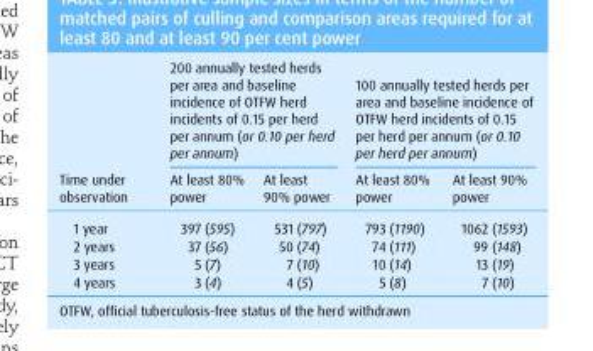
<table><thead><tr><td rowspan="2">Time under observation</td><td colspan="2">200 annually tested herds per area and baseline incidence of OTFW herd incidents of 0.15 per herd per annum (or 0.10 per herd per annum)</td><td colspan="2">100 annually tested herds per area and baseline incidence of OTFW herd incidents of 0.15 per herd per annum (or 0.10 per herd per annum)</td></tr><tr><td>At least 80% power</td><td>At least 90% power</td><td>At least 80% power</td><td>At least 90% power</td></tr></thead><tbody><tr><td>1 year</td><td>397 (595)</td><td>531 (797)</td><td>793 (1190)</td><td>1062 (1593)</td></tr><tr><td>2 years</td><td>37 (56)</td><td>50 (74)</td><td>74 (111)</td><td>99 (148)</td></tr><tr><td>3 years</td><td>5 (7)</td><td>7 (10)</td><td>10 (14)</td><td>13 (19)</td></tr><tr><td>4 years</td><td>3 (4)</td><td>4 (5)</td><td>5 (8)</td><td>7 (10)</td></tr></tbody></table>